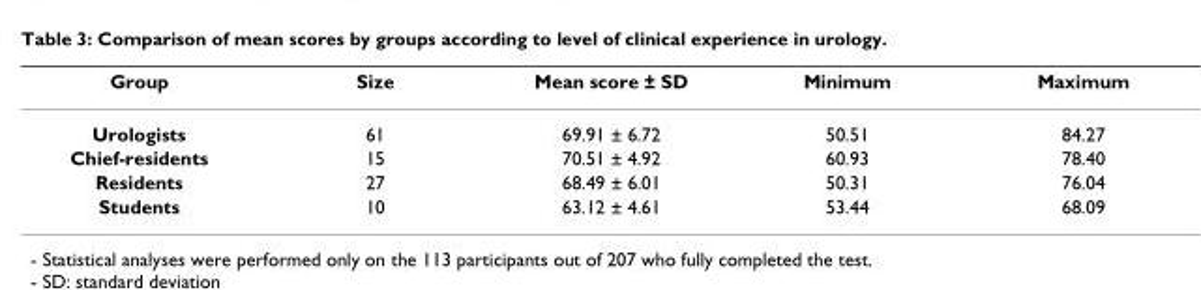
<table><thead><tr><td>Group</td><td>Size</td><td>Mean score ± SD</td><td>Minimum</td><td>Maximum</td></tr></thead><tbody><tr><td>Urologists</td><td>61</td><td>69.91 ± 6.72</td><td>50.51</td><td>84.27</td></tr><tr><td>Chief-residents</td><td>15</td><td>70.51 ± 4.92</td><td>60.93</td><td>78.40</td></tr><tr><td>Residents</td><td>27</td><td>68.49 ± 6.01</td><td>50.31</td><td>76.04</td></tr><tr><td>Students</td><td>10</td><td>63.12 ± 4.61</td><td>53.44</td><td>68.09</td></tr></tbody></table>